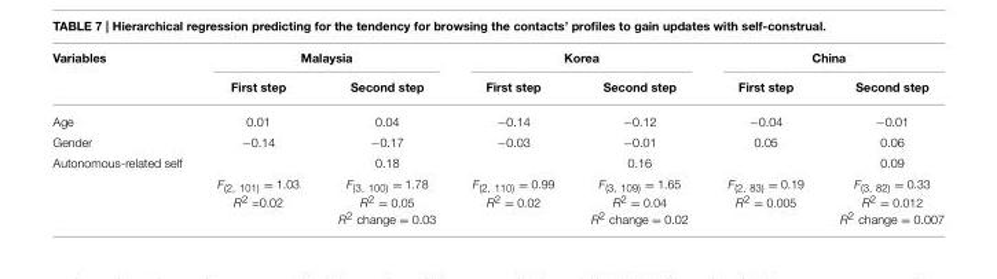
<table><thead><tr><td rowspan="2">Variables</td><td colspan="2">Malaysia</td><td colspan="2">Korea</td><td colspan="2">China</td></tr><tr><td>First step</td><td>Second step</td><td>First step</td><td>Second step</td><td>First step</td><td>Second step</td></tr></thead><tbody><tr><td>Age</td><td>0.01</td><td>0.04</td><td>−0.14</td><td>−0.12</td><td>−0.04</td><td>−0.01</td></tr><tr><td>Gender</td><td>−0.14</td><td>−0.17</td><td>−0.03</td><td>−0.01</td><td>0.05</td><td>0.06</td></tr><tr><td rowspan="2">Autonomous-related self</td><td></td><td>0.18</td><td></td><td>0.16</td><td></td><td>0.09</td></tr><tr><td>F<sub>(2, 101)</sub> = 1.03 R<sup>2</sup> =0.02</td><td>F<sub>(3, 100)</sub> = 1.78 R<sup>2</sup> = 0.05 R<sup>2</sup> change = 0.03</td><td>F<sub>(2, 110)</sub> = 0.99 R<sup>2</sup> = 0.02</td><td>F<sub>(3, 109)</sub> = 1.65 R<sup>2</sup> = 0.04 R<sup>2</sup> change = 0.02</td><td>F<sub>(2, 83)</sub> = 0.19 R<sup>2</sup> = 0.005</td><td>F<sub>(3, 82)</sub> = 0.33 R<sup>2</sup> = 0.012 R<sup>2</sup> change = 0.007</td></tr></tbody></table>